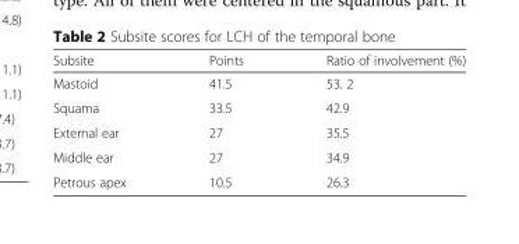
<table><thead><tr><td>Subsite</td><td>Points</td><td>Ratio of involvement (%)</td></tr></thead><tbody><tr><td>Mastoid</td><td>41.5</td><td>53. 2</td></tr><tr><td>Squama</td><td>33.5</td><td>42.9</td></tr><tr><td>External ear</td><td>27</td><td>35.5</td></tr><tr><td>Middle ear</td><td>27</td><td>34.9</td></tr><tr><td>Petrous apex</td><td>10.5</td><td>26.3</td></tr></tbody></table>